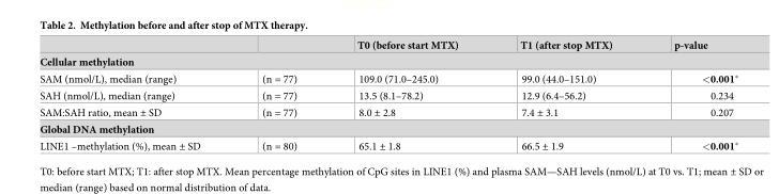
<table><thead><tr><td></td><td></td><td>T0 (before start MTX)</td><td>T1 (after stop MTX)</td><td>p-value</td></tr></thead><tbody><tr><td colspan="5">Cellular methylation</td></tr><tr><td>SAM (nmol/L), median (range)</td><td>(n = 77)</td><td>109.0 (71.0–245.0)</td><td>99.0 (44.0–151.0)</td><td>&lt;0.001*</td></tr><tr><td>SAH (nmol/L), median (range)</td><td>(n = 77)</td><td>13.5 (8.1–78.2)</td><td>12.9 (6.4–56.2)</td><td>0.234</td></tr><tr><td>SAM:SAH ratio, mean ± SD</td><td>(n = 77)</td><td>8.0 ± 2.8</td><td>7.4 ± 3.1</td><td>0.207</td></tr><tr><td colspan="5">Global DNA methylation</td></tr><tr><td>LINE1 –methylation (%), mean ± SD</td><td>(n = 80)</td><td>65.1 ± 1.8</td><td>66.5 ± 1.9</td><td>&lt;0.001*</td></tr></tbody></table>